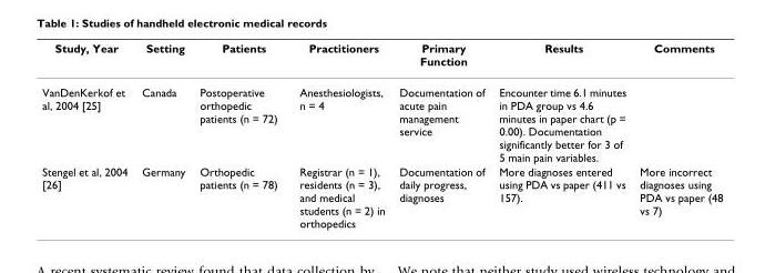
<table><thead><tr><td>Study, Year</td><td>Setting</td><td>Patients</td><td>Practitioners</td><td>Primary Function</td><td>Results</td><td>Comments</td></tr></thead><tbody><tr><td>VanDenKerkof et al, 2004 [25]</td><td>Canada</td><td>Postoperative orthopedic patients (n = 72)</td><td>Anesthesiologists, n = 4</td><td>Documentation of acute pain management service</td><td>Encounter time 6.1 minutes in PDA group vs 4.6 minutes in paper chart (p = 0.00). Documentation significantly better for 3 of 5 main pain variables.</td><td></td></tr><tr><td>Stengel et al, 2004 [26]</td><td>Germany</td><td>Orthopedic patients (n = 78)</td><td>Registrar (n = 1), residents (n = 3), and medical students (n = 2) in orthopedics</td><td>Documentation of daily progress, diagnoses</td><td>More diagnoses entered using PDA vs paper (411 vs 157).</td><td>More incorrect diagnoses using PDA vs paper (48 vs 7)</td></tr></tbody></table>